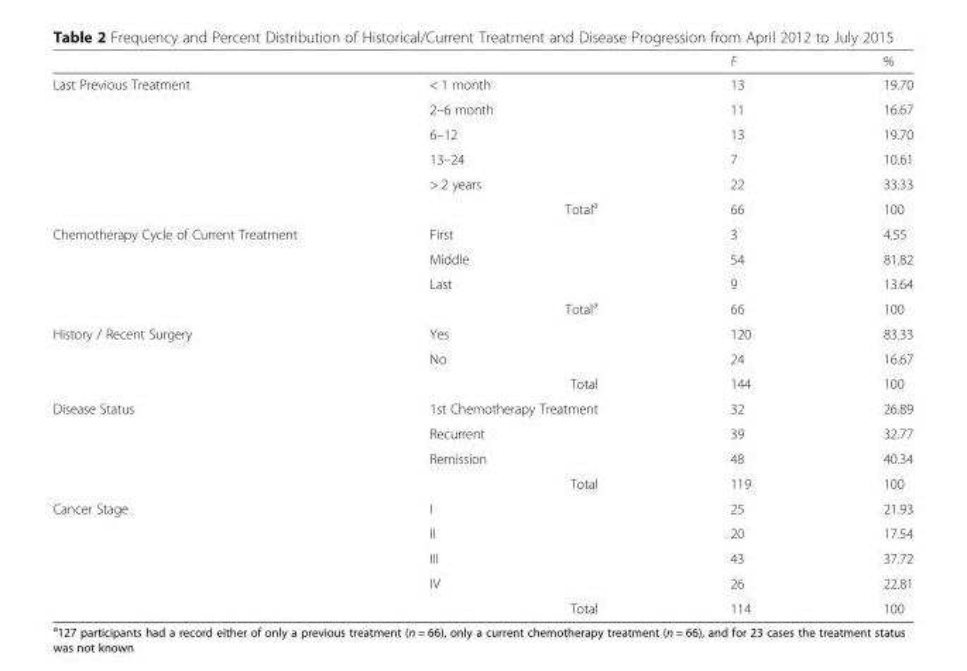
<table><thead><tr><td></td><td></td><td>F</td><td>%</td></tr></thead><tbody><tr><td rowspan="6">Last Previous Treatment</td><td>&lt; 1 month</td><td>13</td><td>19.70</td></tr><tr><td>2–6 month</td><td>11</td><td>16.67</td></tr><tr><td>6–12</td><td>13</td><td>19.70</td></tr><tr><td>13–24</td><td>7</td><td>10.61</td></tr><tr><td>&gt; 2 years</td><td>22</td><td>33.33</td></tr><tr><td>Total<sup>a</sup></td><td>66</td><td>100</td></tr><tr><td rowspan="4">Chemotherapy Cycle of Current Treatment</td><td>First</td><td>3</td><td>4.55</td></tr><tr><td>Middle</td><td>54</td><td>81.82</td></tr><tr><td>Last</td><td>9</td><td>13.64</td></tr><tr><td>Total<sup>a</sup></td><td>66</td><td>100</td></tr><tr><td rowspan="3">History / Recent Surgery</td><td>Yes</td><td>120</td><td>83.33</td></tr><tr><td>No</td><td>24</td><td>16.67</td></tr><tr><td>Total</td><td>144</td><td>100</td></tr><tr><td rowspan="4">Disease Status</td><td>1st Chemotherapy Treatment</td><td>32</td><td>26.89</td></tr><tr><td>Recurrent</td><td>39</td><td>32.77</td></tr><tr><td>Remission</td><td>48</td><td>40.34</td></tr><tr><td>Total</td><td>119</td><td>100</td></tr><tr><td rowspan="5">Cancer Stage</td><td>I</td><td>25</td><td>21.93</td></tr><tr><td>II</td><td>20</td><td>17.54</td></tr><tr><td>III</td><td>43</td><td>37.72</td></tr><tr><td>IV</td><td>26</td><td>22.81</td></tr><tr><td>Total</td><td>114</td><td>100</td></tr></tbody></table>